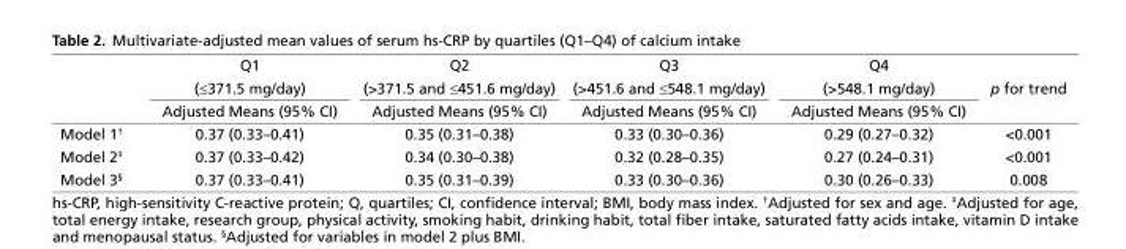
<table><thead><tr><td rowspan="3"></td><td rowspan="3">Q1 (≤371.5 mg/day) Adjusted Means (95% CI)</td><td rowspan="3">Q2 (&gt;371.5 and ≤451.6 mg/day) Adjusted Means (95% CI)</td><td rowspan="3">Q3 (&gt;451.6 and ≤548.1 mg/day) Adjusted Means (95% CI)</td><td rowspan="3">Q4 (&gt;548.1 mg/day) Adjusted Means (95% CI)</td><td rowspan="3">p for trend</td></tr><tr></tr><tr></tr></thead><tbody><tr><td>Model 1<sup>†</sup></td><td>0.37 (0.33–0.41)</td><td>0.35 (0.31–0.38)</td><td>0.33 (0.30–0.36)</td><td>0.29 (0.27–0.32)</td><td>&lt;0.001</td></tr><tr><td>Model 2<sup>‡</sup></td><td>0.37 (0.33–0.42)</td><td>0.34 (0.30–0.38)</td><td>0.32 (0.28–0.35)</td><td>0.27 (0.24–0.31)</td><td>&lt;0.001</td></tr><tr><td>Model 3<sup>§</sup></td><td>0.37 (0.33–0.41)</td><td>0.35 (0.31–0.39)</td><td>0.33 (0.30–0.36)</td><td>0.30 (0.26–0.33)</td><td>0.008</td></tr></tbody></table>